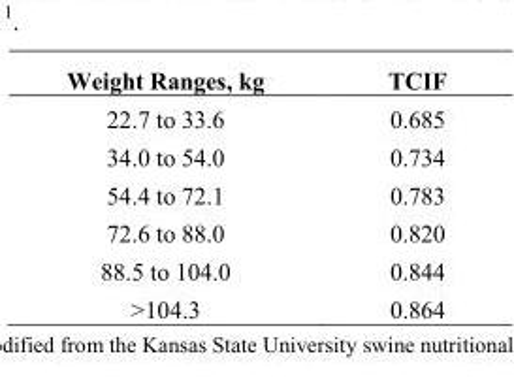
<table><thead><tr><td>Weight Ranges, kg</td><td>TCIF</td></tr></thead><tbody><tr><td>22.7 to 33.6</td><td>0.685</td></tr><tr><td>34.0 to 54.0</td><td>0.734</td></tr><tr><td>54.4 to 72.1</td><td>0.783</td></tr><tr><td>72.6 to 88.0</td><td>0.820</td></tr><tr><td>88.5 to 104.0</td><td>0.844</td></tr><tr><td>&gt;104.3</td><td>0.864</td></tr></tbody></table>